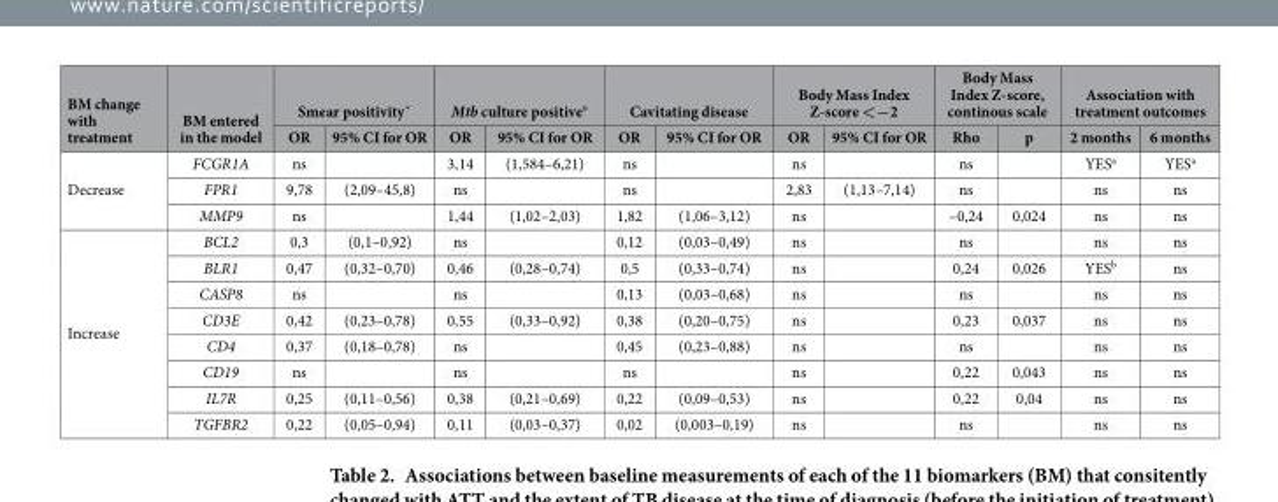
<table><thead><tr><td rowspan="2">BM change with treatment</td><td rowspan="2">BM entered in the model</td><td colspan="2">Smear positivityˇ</td><td colspan="2">Mtb culture positive°</td><td colspan="2">Cavitating disease</td><td colspan="2">Body Mass Index Z-score &lt;−2</td><td colspan="2">Body Mass Index Z-score, continous scale</td><td colspan="2">Association with treatment outcomes</td></tr><tr><td>OR</td><td>95% CI for OR</td><td>OR</td><td>95% CI for OR</td><td>OR</td><td>95% CI for OR</td><td>OR</td><td>95% CI for OR</td><td>Rho</td><td>p</td><td>2 months</td><td>6 months</td></tr></thead><tbody><tr><td rowspan="3">Decrease</td><td>FCGR1A</td><td>ns</td><td></td><td>3,14</td><td>(1,584–6,21)</td><td>ns</td><td></td><td>ns</td><td></td><td>ns</td><td></td><td>YES<sup>a</sup></td><td>YES<sup>a</sup></td></tr><tr><td>FPR1</td><td>9,78</td><td>(2,09–45,8)</td><td>ns</td><td></td><td>ns</td><td></td><td>2,83</td><td>(1,13–7,14)</td><td>ns</td><td></td><td>ns</td><td>ns</td></tr><tr><td>MMP9</td><td>ns</td><td></td><td>1,44</td><td>(1,02–2,03)</td><td>1,82</td><td>(1,06–3,12)</td><td>ns</td><td></td><td>–0,24</td><td>0,024</td><td>ns</td><td>ns</td></tr><tr><td rowspan="8">Increase</td><td>BCL2</td><td>0,3</td><td>(0,1–0,92)</td><td>ns</td><td></td><td>0,12</td><td>(0,03–0,49)</td><td>ns</td><td></td><td>ns</td><td></td><td>ns</td><td>ns</td></tr><tr><td>BLR1</td><td>0,47</td><td>(0,32–0,70)</td><td>0,46</td><td>(0,28–0,74)</td><td>0,5</td><td>(0,33–0,74)</td><td>ns</td><td></td><td>0,24</td><td>0,026</td><td>YES<sup>b</sup></td><td>ns</td></tr><tr><td>CASP8</td><td>ns</td><td></td><td>ns</td><td></td><td>0,13</td><td>(0,03–0,68)</td><td>ns</td><td></td><td>ns</td><td></td><td>ns</td><td>ns</td></tr><tr><td>CD3E</td><td>0,42</td><td>(0,23–0,78)</td><td>0,55</td><td>(0,33–0,92)</td><td>0,38</td><td>(0,20–0,75)</td><td>ns</td><td></td><td>0,23</td><td>0,037</td><td>ns</td><td>ns</td></tr><tr><td>CD4</td><td>0,37</td><td>(0,18–0,78)</td><td>ns</td><td></td><td>0,45</td><td>(0,23–0,88)</td><td>ns</td><td></td><td>ns</td><td></td><td>ns</td><td>ns</td></tr><tr><td>CD19</td><td>ns</td><td></td><td>ns</td><td></td><td>ns</td><td></td><td>ns</td><td></td><td>0,22</td><td>0,043</td><td>ns</td><td>ns</td></tr><tr><td>IL7R</td><td>0,25</td><td>(0,11–0,56)</td><td>0,38</td><td>(0,21–0,69)</td><td>0,22</td><td>(0,09–0,53)</td><td>ns</td><td></td><td>0,22</td><td>0,04</td><td>ns</td><td>ns</td></tr><tr><td>TGFBR2</td><td>0,22</td><td>(0,05–0,94)</td><td>0,11</td><td>(0,03–0,37)</td><td>0,02</td><td>(0,003–0,19)</td><td>ns</td><td></td><td>ns</td><td></td><td>ns</td><td>ns</td></tr></tbody></table>